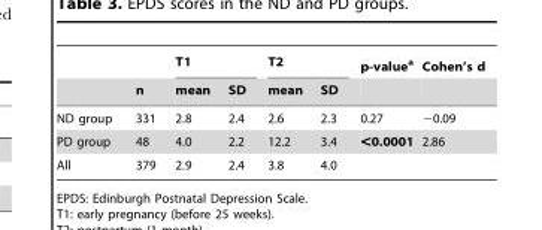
<table><thead><tr><td rowspan="2"></td><td rowspan="2">n</td><td colspan="2">T1</td><td colspan="2">T2</td><td rowspan="2">p-value<sup>a</sup></td><td rowspan="2">Cohen’s d</td></tr><tr><td>mean</td><td>SD</td><td>mean</td><td>SD</td></tr></thead><tbody><tr><td>ND group</td><td>331</td><td>2.8</td><td>2.4</td><td>2.6</td><td>2.3</td><td>0.27</td><td>−0.09</td></tr><tr><td>PD group</td><td>48</td><td>4.0</td><td>2.2</td><td>12.2</td><td>3.4</td><td>&lt;0.0001</td><td>2.86</td></tr><tr><td>All</td><td>379</td><td>2.9</td><td>2.4</td><td>3.8</td><td>4.0</td><td></td><td></td></tr></tbody></table>